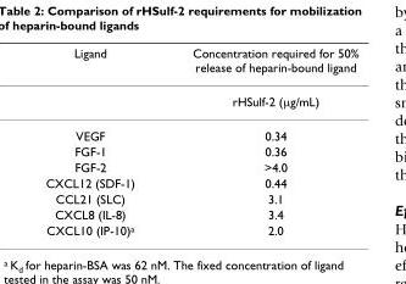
<table><thead><tr><td>Ligand</td><td>Concentration required for 50% release of heparin-bound ligand</td></tr></thead><tbody><tr><td></td><td>rHSulf-2 (µg/mL)</td></tr><tr><td>VEGF</td><td>0.34</td></tr><tr><td>FGF-1</td><td>0.36</td></tr><tr><td>FGF-2</td><td>&gt;4.0</td></tr><tr><td>CXCL12 (SDF-1)</td><td>0.44</td></tr><tr><td>CCL21 (SLC)</td><td>3.1</td></tr><tr><td>CXCL8 (IL-8)</td><td>3.4</td></tr><tr><td>CXCL10 (IP-10)<sup>a</sup></td><td>2.0</td></tr></tbody></table>